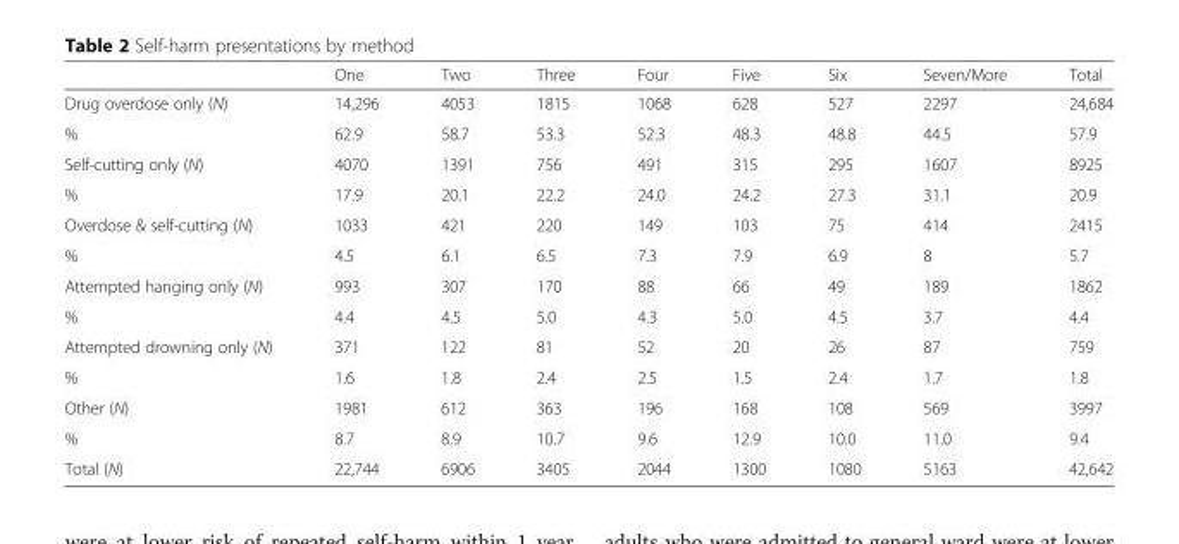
<table><thead><tr><td></td><td>One</td><td>Two</td><td>Three</td><td>Four</td><td>Five</td><td>Six</td><td>Seven/More</td><td>Total</td></tr></thead><tbody><tr><td>Drug overdose only (N)</td><td>14,296</td><td>4053</td><td>1815</td><td>1068</td><td>628</td><td>527</td><td>2297</td><td>24,684</td></tr><tr><td>%</td><td>62.9</td><td>58.7</td><td>53.3</td><td>52.3</td><td>48.3</td><td>48.8</td><td>44.5</td><td>57.9</td></tr><tr><td>Self-cutting only (N)</td><td>4070</td><td>1391</td><td>756</td><td>491</td><td>315</td><td>295</td><td>1607</td><td>8925</td></tr><tr><td>%</td><td>17.9</td><td>20.1</td><td>22.2</td><td>24.0</td><td>24.2</td><td>27.3</td><td>31.1</td><td>20.9</td></tr><tr><td>Overdose &amp; self-cutting (N)</td><td>1033</td><td>421</td><td>220</td><td>149</td><td>103</td><td>75</td><td>414</td><td>2415</td></tr><tr><td>%</td><td>4.5</td><td>6.1</td><td>6.5</td><td>7.3</td><td>7.9</td><td>6.9</td><td>8</td><td>5.7</td></tr><tr><td>Attempted hanging only (N)</td><td>993</td><td>307</td><td>170</td><td>88</td><td>66</td><td>49</td><td>189</td><td>1862</td></tr><tr><td>%</td><td>4.4</td><td>4.5</td><td>5.0</td><td>4.3</td><td>5.0</td><td>4.5</td><td>3.7</td><td>4.4</td></tr><tr><td>Attempted drowning only (N)</td><td>371</td><td>122</td><td>81</td><td>52</td><td>20</td><td>26</td><td>87</td><td>759</td></tr><tr><td>%</td><td>1.6</td><td>1.8</td><td>2.4</td><td>2.5</td><td>1.5</td><td>2.4</td><td>1.7</td><td>1.8</td></tr><tr><td>Other (N)</td><td>1981</td><td>612</td><td>363</td><td>196</td><td>168</td><td>108</td><td>569</td><td>3997</td></tr><tr><td>%</td><td>8.7</td><td>8.9</td><td>10.7</td><td>9.6</td><td>12.9</td><td>10.0</td><td>11.0</td><td>9.4</td></tr><tr><td>Total (N)</td><td>22,744</td><td>6906</td><td>3405</td><td>2044</td><td>1300</td><td>1080</td><td>5163</td><td>42,642</td></tr></tbody></table>